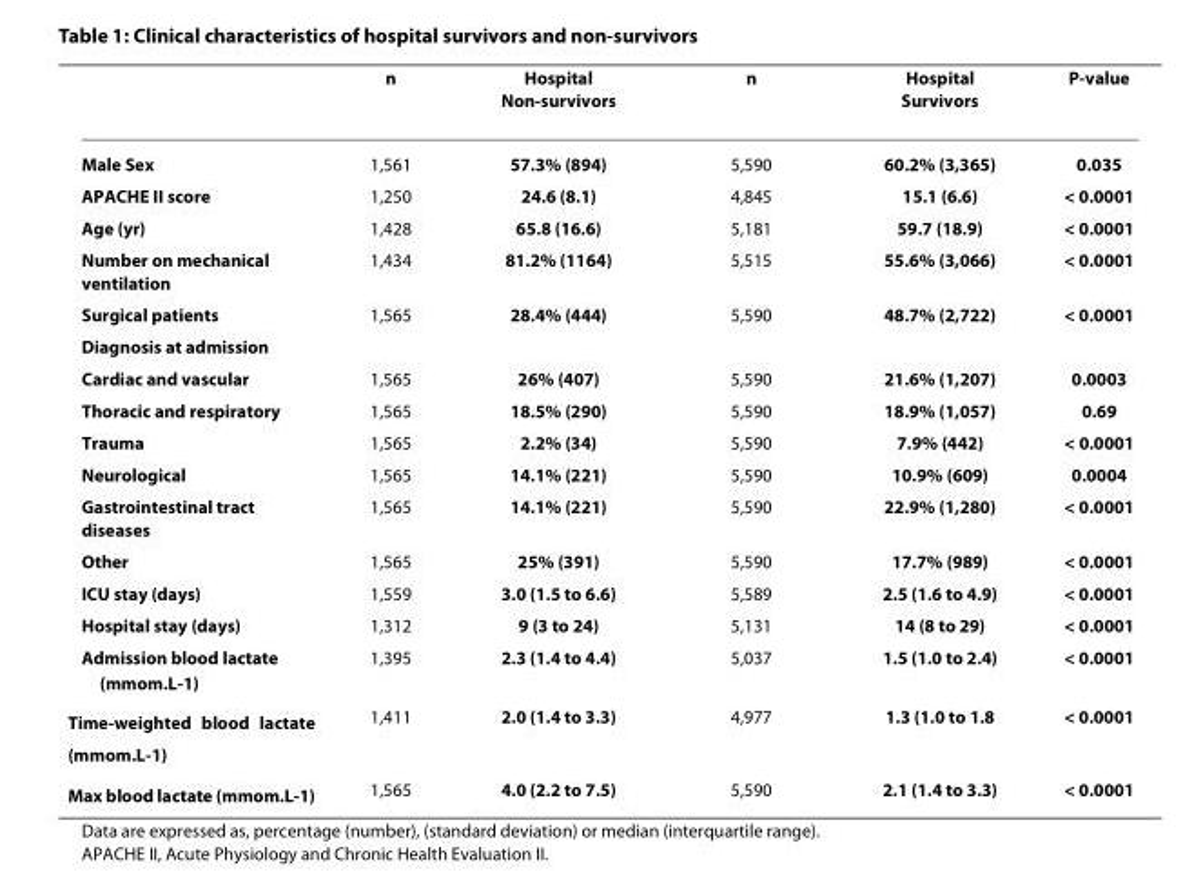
<table><thead><tr><td></td><td>n</td><td>Hospital Non-survivors</td><td>n</td><td>Hospital Survivors</td><td>P-value</td></tr></thead><tbody><tr><td>Male Sex</td><td>1,561</td><td>57.3% (894)</td><td>5,590</td><td>60.2% (3,365)</td><td>0.035</td></tr><tr><td>APACHE II score</td><td>1,250</td><td>24.6 (8.1)</td><td>4,845</td><td>15.1 (6.6)</td><td>&lt; 0.0001</td></tr><tr><td>Age (yr)</td><td>1,428</td><td>65.8 (16.6)</td><td>5,181</td><td>59.7 (18.9)</td><td>&lt; 0.0001</td></tr><tr><td>Number on mechanical ventilation</td><td>1,434</td><td>81.2% (1164)</td><td>5,515</td><td>55.6% (3,066)</td><td>&lt; 0.0001</td></tr><tr><td>Surgical patients</td><td>1,565</td><td>28.4% (444)</td><td>5,590</td><td>48.7% (2,722)</td><td>&lt; 0.0001</td></tr><tr><td colspan="6">Diagnosis at admission</td></tr><tr><td>Cardiac and vascular</td><td>1,565</td><td>26% (407)</td><td>5,590</td><td>21.6% (1,207)</td><td>0.0003</td></tr><tr><td>Thoracic and respiratory</td><td>1,565</td><td>18.5% (290)</td><td>5,590</td><td>18.9% (1,057)</td><td>0.69</td></tr><tr><td>Trauma</td><td>1,565</td><td>2.2% (34)</td><td>5,590</td><td>7.9% (442)</td><td>&lt; 0.0001</td></tr><tr><td>Neurological</td><td>1,565</td><td>14.1% (221)</td><td>5,590</td><td>10.9% (609)</td><td>0.0004</td></tr><tr><td>Gastrointestinal tract diseases</td><td>1,565</td><td>14.1% (221)</td><td>5,590</td><td>22.9% (1,280)</td><td>&lt; 0.0001</td></tr><tr><td>Other</td><td>1,565</td><td>25% (391)</td><td>5,590</td><td>17.7% (989)</td><td>&lt; 0.0001</td></tr><tr><td>ICU stay (days)</td><td>1,559</td><td>3.0 (1.5 to 6.6)</td><td>5,589</td><td>2.5 (1.6 to 4.9)</td><td>&lt; 0.0001</td></tr><tr><td>Hospital stay (days)</td><td>1,312</td><td>9 (3 to 24)</td><td>5,131</td><td>14 (8 to 29)</td><td>&lt; 0.0001</td></tr><tr><td>Admission blood lactate (mmom.L<sup>-1</sup>)</td><td>1,395</td><td>2.3 (1.4 to 4.4)</td><td>5,037</td><td>1.5 (1.0 to 2.4)</td><td>&lt; 0.0001</td></tr><tr><td>Time-weighted blood lactate (mmom.L<sup>-1)</sup></td><td>1,411</td><td>2.0 (1.4 to 3.3)</td><td>4,977</td><td>1.3 (1.0 to 1.8</td><td>&lt; 0.0001</td></tr><tr><td>Max blood lactate (mmom.L<sup>-1)</sup></td><td>1,565</td><td>4.0 (2.2 to 7.5)</td><td>5,590</td><td>2.1 (1.4 to 3.3)</td><td>&lt; 0.0001</td></tr></tbody></table>